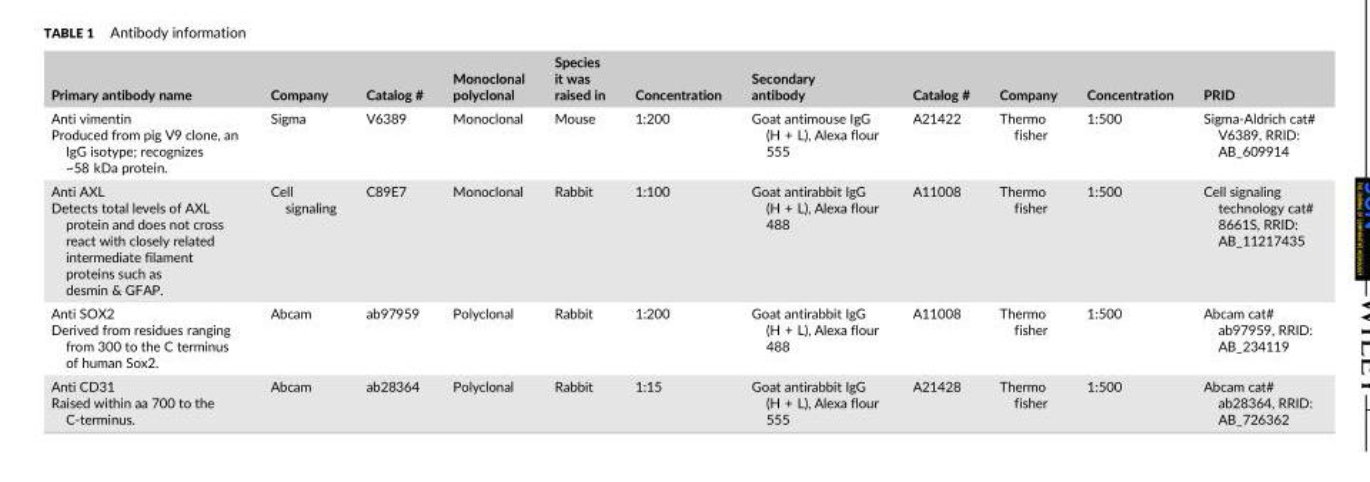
<table><thead><tr><td>Primary antibody name</td><td>Company</td><td>Catalog #</td><td>Monoclonal polyclonal</td><td>Species it was raised in</td><td>Concentration</td><td>Secondary antibody</td><td>Catalog #</td><td>Company</td><td>Concentration</td><td>PRID</td></tr></thead><tbody><tr><td>Anti vimentin Produced from pig V9 clone, an IgG isotype; recognizes ~58 kDa protein.</td><td>Sigma</td><td>V6389</td><td>Monoclonal</td><td>Mouse</td><td>1:200</td><td>Goat antimouse IgG (H + L), Alexa flour 555</td><td>A21422</td><td>Thermo fisher</td><td>1:500</td><td>Sigma-Aldrich cat# V6389, RRID: AB_609914</td></tr><tr><td>Anti AXL Detects total levels of AXL protein and does not cross react with closely related intermediate filament proteins such as desmin &amp; GFAP.</td><td>Cell signaling</td><td>C89E7</td><td>Monoclonal</td><td>Rabbit</td><td>1:100</td><td>Goat antirabbit IgG (H + L), Alexa flour 488</td><td>A11008</td><td>Thermo fisher</td><td>1:500</td><td>Cell signaling technology cat# 8661S, RRID: AB_11217435</td></tr><tr><td>Anti SOX2 Derived from residues ranging from 300 to the C terminus of human Sox2.</td><td>Abcam</td><td>ab97959</td><td>Polyclonal</td><td>Rabbit</td><td>1:200</td><td>Goat antirabbit IgG (H + L), Alexa flour 488</td><td>A11008</td><td>Thermo fisher</td><td>1:500</td><td>Abcam cat# ab97959, RRID: AB_234119</td></tr><tr><td>Anti CD31 Raised within aa 700 to the C-terminus.</td><td>Abcam</td><td>ab28364</td><td>Polyclonal</td><td>Rabbit</td><td>1:15</td><td>Goat antirabbit IgG (H + L), Alexa flour 555</td><td>A21428</td><td>Thermo fisher</td><td>1:500</td><td>Abcam cat# ab28364, RRID: AB_726362</td></tr></tbody></table>